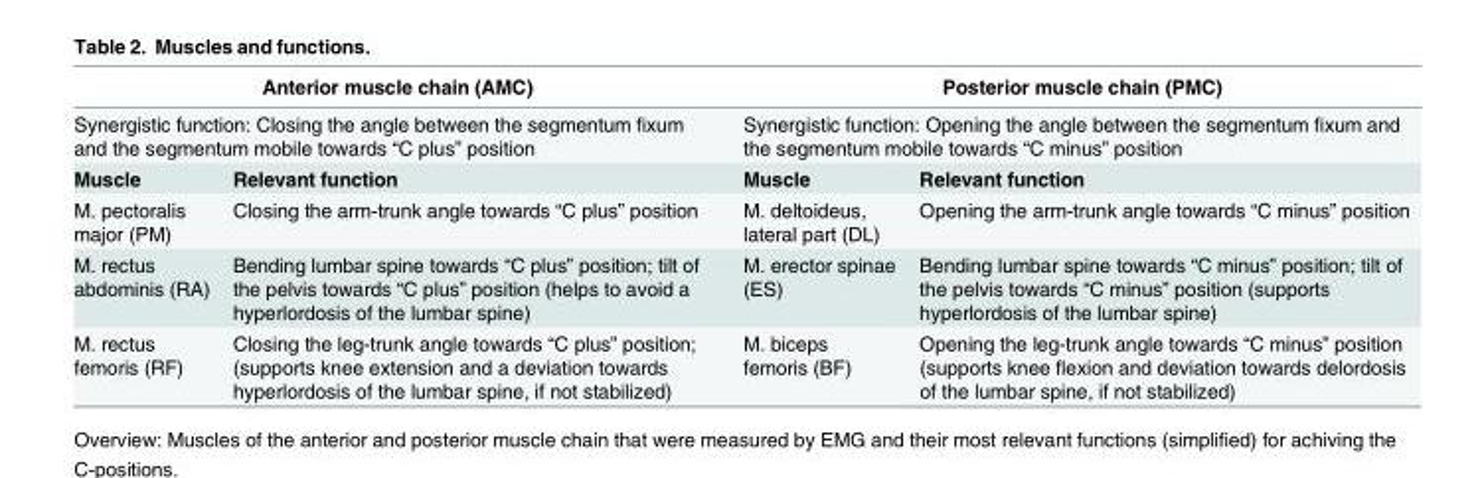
<table><thead><tr><td rowspan="2" colspan="2">Anterior muscle chain (AMC) Synergistic function: Closing the angle between the segmentum fixum and the segmentum mobile towards “C plus” position</td><td rowspan="2" colspan="2">Posterior muscle chain (PMC) Synergistic function: Opening the angle between the segmentum fixum and the segmentum mobile towards “C minus” position</td></tr><tr></tr><tr><td>Muscle</td><td>Relevant function</td><td>Muscle</td><td>Relevant function</td></tr></thead><tbody><tr><td>M. pectoralis major (PM)</td><td>Closing the arm-trunk angle towards “C plus” position</td><td>M. deltoideus, lateral part (DL)</td><td>Opening the arm-trunk angle towards “C minus” position</td></tr><tr><td>M. rectus abdominis (RA)</td><td>Bending lumbar spine towards “C plus” position; tilt of the pelvis towards “C plus” position (helps to avoid a hyperlordosis of the lumbar spine)</td><td>M. erector spinae (ES)</td><td>Bending lumbar spine towards “C minus” position; tilt of the pelvis towards “C minus” position (supports hyperlordosis of the lumbar spine)</td></tr><tr><td>M. rectus femoris (RF)</td><td>Closing the leg-trunk angle towards “C plus” position; (supports knee extension and a deviation towards hyperlordosis of the lumbar spine, if not stabilized)</td><td>M. biceps femoris (BF)</td><td>Opening the leg-trunk angle towards “C minus” position (supports knee flexion and deviation towards delordosis of the lumbar spine, if not stabilized)</td></tr></tbody></table>